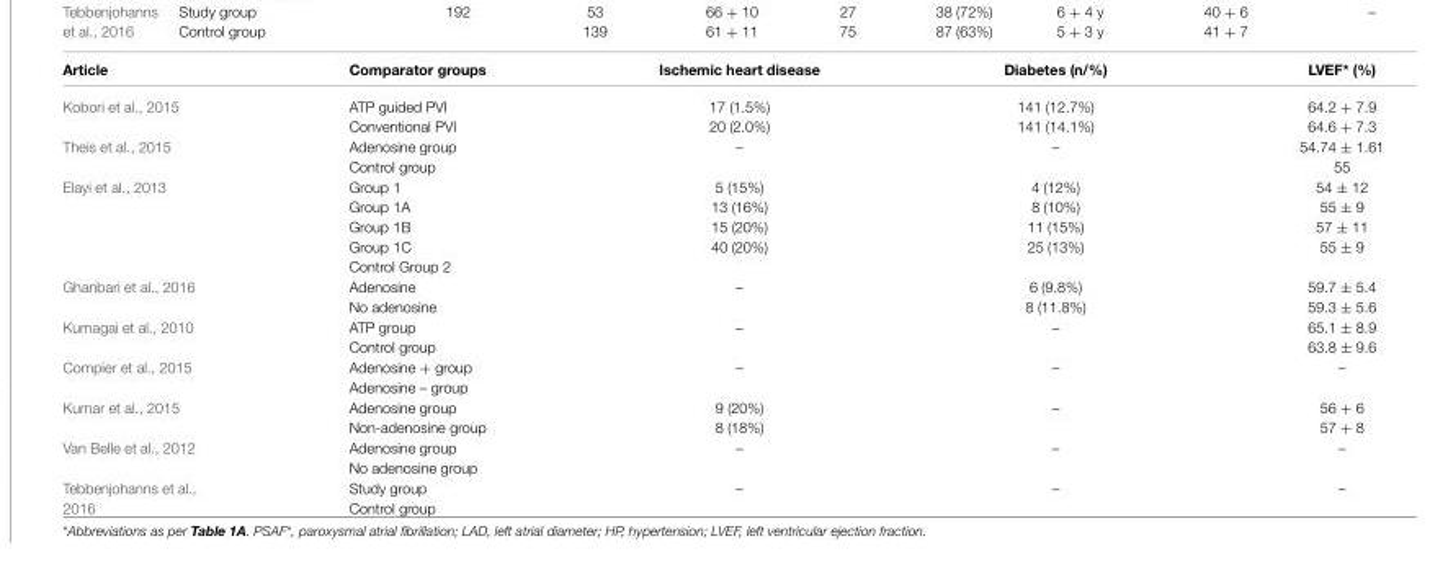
<table><thead><tr><td>Article</td><td>Comparator groups</td><td>Ischemic heart disease</td><td>Diabetes (n/%)</td><td>LVEF* (%)</td></tr></thead><tbody><tr><td>Kobori et al., 2015</td><td>ATP guided PVI Conventional PVI</td><td>17 (1.5%) 20 (2.0%)</td><td>141 (12.7%) 141 (14.1%)</td><td>64.2 + 7.9 64.6 + 7.3</td></tr><tr><td>Theis et al., 2015</td><td>Adenosine group Control group</td><td>–</td><td>–</td><td>54.74 ± 1.61 55</td></tr><tr><td>Elayi et al., 2013</td><td>Group 1 Group 1A Group 1B Group 1C Control Group 2</td><td>5 (15%) 13 (16%) 15 (20%) 40 (20%)</td><td>4 (12%) 8 (10%) 11 (15%) 25 (13%)</td><td>54 ± 12 55 ± 9 57 ± 11 55 ± 9</td></tr><tr><td>Ghanbari et al., 2016</td><td>Adenosine No adenosine</td><td>–</td><td>6 (9.8%) 8 (11.8%)</td><td>59.7 ± 5.4 59.3 ± 5.6</td></tr><tr><td>Kumagai et al., 2010</td><td>ATP group Control group</td><td>–</td><td>–</td><td>65.1 ± 8.9 63.8 ± 9.6</td></tr><tr><td>Compier et al., 2015</td><td>Adenosine + group Adenosine – group</td><td>–</td><td>–</td><td>–</td></tr><tr><td>Kumar et al., 2015</td><td>Adenosine group Non-adenosine group</td><td>9 (20%) 8 (18%)</td><td>–</td><td>56 + 6 57 + 8</td></tr><tr><td>Van Belle et al., 2012</td><td>Adenosine group No adenosine group</td><td>–</td><td>–</td><td>–</td></tr><tr><td>Tebbenjohanns et al., 2016</td><td>Study group Control group</td><td>–</td><td>–</td><td>–</td></tr></tbody></table>